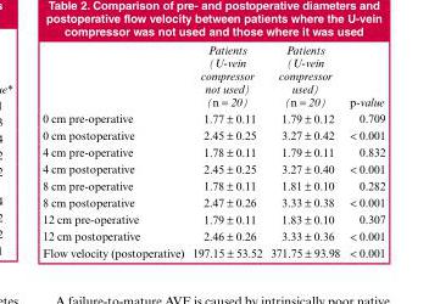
<table><thead><tr><td></td><td>Patients (U-vein compressor not used) (n = 20)</td><td>Patients (U-vein compressor used) (n = 20)</td><td>p-value</td></tr></thead><tbody><tr><td>0 cm pre-operative</td><td>1.77 ± 0.11</td><td>1.79 ± 0.12</td><td>0.709</td></tr><tr><td>0 cm postoperative</td><td>2.45 ± 0.25</td><td>3.27 ± 0.42</td><td>&lt; 0.001</td></tr><tr><td>4 cm pre-operative</td><td>1.78 ± 0.11</td><td>1.79 ± 0.11</td><td>0.832</td></tr><tr><td>4 cm postoperative</td><td>2.45 ± 0.25</td><td>3.27 ± 0.40</td><td>&lt; 0.001</td></tr><tr><td>8 cm pre-operative</td><td>1.78 ± 0.11</td><td>1.81 ± 0.10</td><td>0.282</td></tr><tr><td>8 cm postoperative</td><td>2.47 ± 0.26</td><td>3.33 ± 0.38</td><td>&lt; 0.001</td></tr><tr><td>12 cm pre-operative</td><td>1.79 ± 0.11</td><td>1.83 ± 0.10</td><td>0.307</td></tr><tr><td>12 cm postoperative</td><td>2.46 ± 0.26</td><td>3.33 ± 0.36</td><td>&lt; 0.001</td></tr><tr><td>Flow velocity (postoperative)</td><td>197.15 ± 53.52</td><td>371.75 ± 93.98</td><td>&lt; 0.001</td></tr></tbody></table>